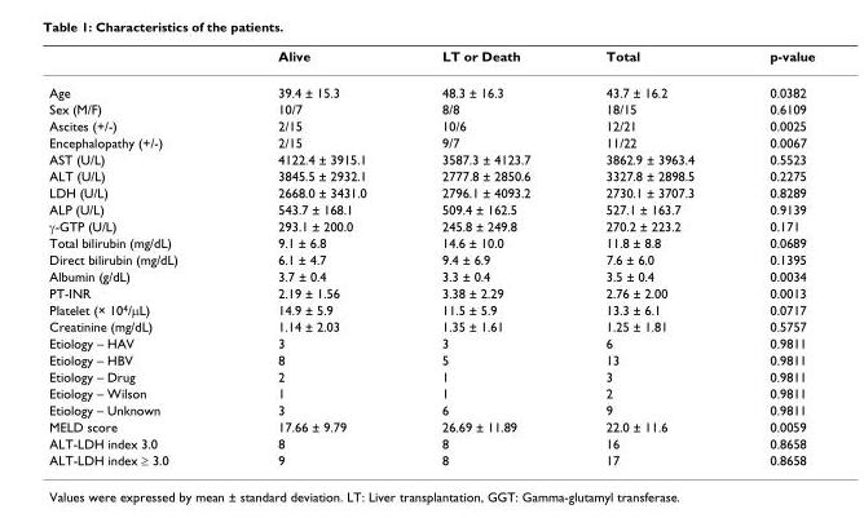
<table><thead><tr><td></td><td>Alive</td><td>LT or Death</td><td>Total</td><td>p-value</td></tr></thead><tbody><tr><td>Age</td><td>39.4 ± 15.3</td><td>48.3 ± 16.3</td><td>43.7 ± 16.2</td><td>0.0382</td></tr><tr><td>Sex (M/F)</td><td>10/7</td><td>8/8</td><td>18/15</td><td>0.6109</td></tr><tr><td>Ascites (+/-)</td><td>2/15</td><td>10/6</td><td>12/21</td><td>0.0025</td></tr><tr><td>Encephalopathy (+/-)</td><td>2/15</td><td>9/7</td><td>11/22</td><td>0.0067</td></tr><tr><td>AST (U/L)</td><td>4122.4 ± 3915.1</td><td>3587.3 ± 4123.7</td><td>3862.9 ± 3963.4</td><td>0.5523</td></tr><tr><td>ALT (U/L)</td><td>3845.5 ± 2932.1</td><td>2777.8 ± 2850.6</td><td>3327.8 ± 2898.5</td><td>0.2275</td></tr><tr><td>LDH (U/L)</td><td>2668.0 ± 3431.0</td><td>2796.1 ± 4093.2</td><td>2730.1 ± 3707.3</td><td>0.8289</td></tr><tr><td>ALP (U/L)</td><td>543.7 ± 168.1</td><td>509.4 ± 162.5</td><td>527.1 ± 163.7</td><td>0.9139</td></tr><tr><td>γ-GTP (U/L)</td><td>293.1 ± 200.0</td><td>245.8 ± 249.8</td><td>270.2 ± 223.2</td><td>0.171</td></tr><tr><td>Total bilirubin (mg/dL)</td><td>9.1 ± 6.8</td><td>14.6 ± 10.0</td><td>11.8 ± 8.8</td><td>0.0689</td></tr><tr><td>Direct bilirubin (mg/dL)</td><td>6.1 ± 4.7</td><td>9.4 ± 6.9</td><td>7.6 ± 6.0</td><td>0.1395</td></tr><tr><td>Albumin (g/dL)</td><td>3.7 ± 0.4</td><td>3.3 ± 0.4</td><td>3.5 ± 0.4</td><td>0.0034</td></tr><tr><td>PT-INR</td><td>2.19 ± 1.56</td><td>3.38 ± 2.29</td><td>2.76 ± 2.00</td><td>0.0013</td></tr><tr><td>Platelet (× 10<sup>4</sup>/μL)</td><td>14.9 ± 5.9</td><td>11.5 ± 5.9</td><td>13.3 ± 6.1</td><td>0.0717</td></tr><tr><td>Creatinine (mg/dL)</td><td>1.14 ± 2.03</td><td>1.35 ± 1.61</td><td>1.25 ± 1.81</td><td>0.5757</td></tr><tr><td>Etiology – HAV</td><td>3</td><td>3</td><td>6</td><td>0.9811</td></tr><tr><td>Etiology – HBV</td><td>8</td><td>5</td><td>13</td><td>0.9811</td></tr><tr><td>Etiology – Drug</td><td>2</td><td>1</td><td>3</td><td>0.9811</td></tr><tr><td>Etiology – Wilson</td><td>1</td><td>1</td><td>2</td><td>0.9811</td></tr><tr><td>Etiology – Unknown</td><td>3</td><td>6</td><td>9</td><td>0.9811</td></tr><tr><td>MELD score</td><td>17.66 ± 9.79</td><td>26.69 ± 11.89</td><td>22.0 ± 11.6</td><td>0.0059</td></tr><tr><td>ALT-LDH index 3.0</td><td>8</td><td>8</td><td>16</td><td>0.8658</td></tr><tr><td>ALT-LDH index ≥ 3.0</td><td>9</td><td>8</td><td>17</td><td>0.8658</td></tr></tbody></table>